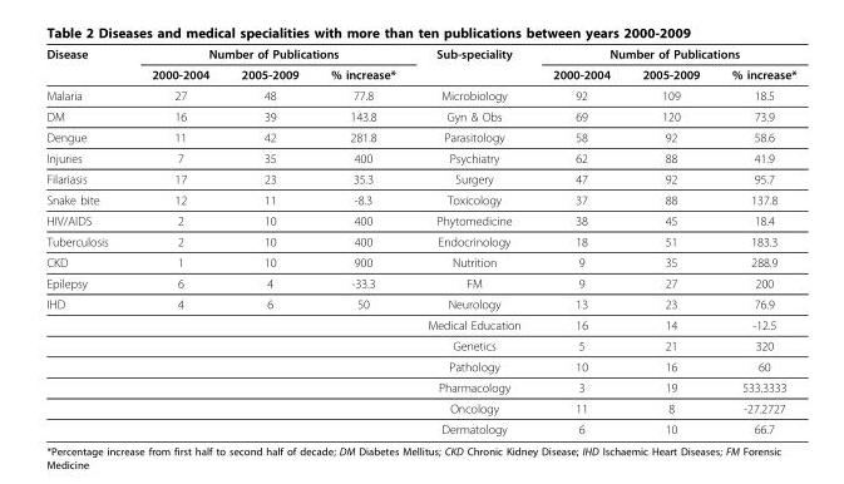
<table><thead><tr><td rowspan="2">Disease</td><td colspan="3">Number of Publications</td><td rowspan="2">Sub-speciality</td><td colspan="3">Number of Publications</td></tr><tr><td>2000-2004</td><td>2005-2009</td><td>% increase*</td><td>2000-2004</td><td>2005-2009</td><td>% increase*</td></tr></thead><tbody><tr><td>Malaria</td><td>27</td><td>48</td><td>77.8</td><td>Microbiology</td><td>92</td><td>109</td><td>18.5</td></tr><tr><td>DM</td><td>16</td><td>39</td><td>143.8</td><td>Gyn &amp; Obs</td><td>69</td><td>120</td><td>73.9</td></tr><tr><td>Dengue</td><td>11</td><td>42</td><td>281.8</td><td>Parasitology</td><td>58</td><td>92</td><td>58.6</td></tr><tr><td>Injuries</td><td>7</td><td>35</td><td>400</td><td>Psychiatry</td><td>62</td><td>88</td><td>41.9</td></tr><tr><td>Filariasis</td><td>17</td><td>23</td><td>35.3</td><td>Surgery</td><td>47</td><td>92</td><td>95.7</td></tr><tr><td>Snake bite</td><td>12</td><td>11</td><td>-8.3</td><td>Toxicology</td><td>37</td><td>88</td><td>137.8</td></tr><tr><td>HIV/AIDS</td><td>2</td><td>10</td><td>400</td><td>Phytomedicine</td><td>38</td><td>45</td><td>18.4</td></tr><tr><td>Tuberculosis</td><td>2</td><td>10</td><td>400</td><td>Endocrinology</td><td>18</td><td>51</td><td>183.3</td></tr><tr><td>CKD</td><td>1</td><td>10</td><td>900</td><td>Nutrition</td><td>9</td><td>35</td><td>288.9</td></tr><tr><td>Epilepsy</td><td>6</td><td>4</td><td>-33.3</td><td>FM</td><td>9</td><td>27</td><td>200</td></tr><tr><td rowspan="7">IHD</td><td>4</td><td>6</td><td>50</td><td>Neurology</td><td>13</td><td>23</td><td>76.9</td></tr><tr><td></td><td></td><td></td><td>Medical Education</td><td>16</td><td>14</td><td>-12.5</td></tr><tr><td></td><td></td><td></td><td>Genetics</td><td>5</td><td>21</td><td>320</td></tr><tr><td></td><td></td><td></td><td>Pathology</td><td>10</td><td>16</td><td>60</td></tr><tr><td></td><td></td><td></td><td>Pharmacology</td><td>3</td><td>19</td><td>533.3333</td></tr><tr><td></td><td></td><td></td><td>Oncology</td><td>11</td><td>8</td><td>-27.2727</td></tr><tr><td></td><td></td><td></td><td>Dermatology</td><td>6</td><td>10</td><td>66.7</td></tr></tbody></table>